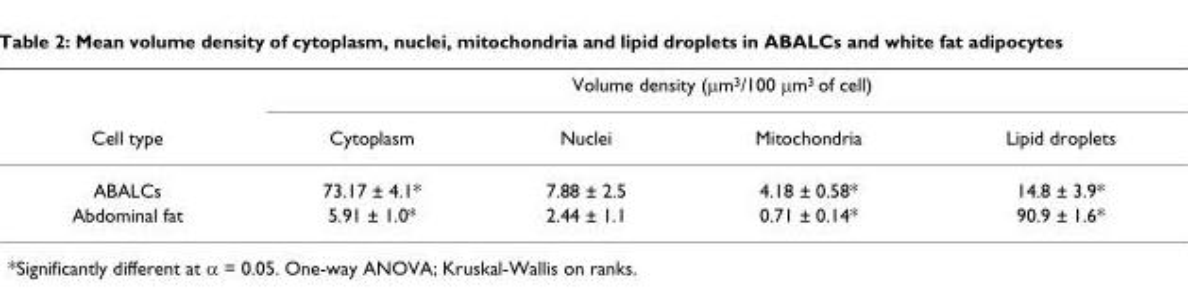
<table><thead><tr><td rowspan="2">Cell type</td><td colspan="4">Volume density (μm<sup>3</sup>/100 μm<sup>3</sup> of cell)</td></tr><tr><td>Cytoplasm</td><td>Nuclei</td><td>Mitochondria</td><td>Lipid droplets</td></tr></thead><tbody><tr><td>ABALCs</td><td>73.17 ± 4.1*</td><td>7.88 ± 2.5</td><td>4.18 ± 0.58*</td><td>14.8 ± 3.9*</td></tr><tr><td>Abdominal fat</td><td>5.91 ± 1.0*</td><td>2.44 ± 1.1</td><td>0.71 ± 0.14*</td><td>90.9 ± 1.6*</td></tr></tbody></table>